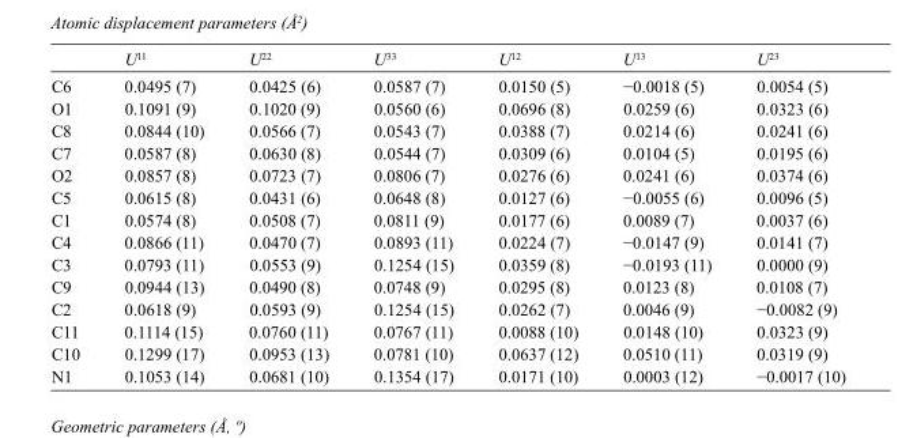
<table><thead><tr><td></td><td>U<sup>11</sup></td><td>U<sup>22</sup></td><td>U<sup>33</sup></td><td>U<sup>12</sup></td><td>U<sup>13</sup></td><td>U<sup>23</sup></td></tr></thead><tbody><tr><td>C6</td><td>0.0495 (7)</td><td>0.0425 (6)</td><td>0.0587 (7)</td><td>0.0150 (5)</td><td>−0.0018 (5)</td><td>0.0054 (5)</td></tr><tr><td>O1</td><td>0.1091 (9)</td><td>0.1020 (9)</td><td>0.0560 (6)</td><td>0.0696 (8)</td><td>0.0259 (6)</td><td>0.0323 (6)</td></tr><tr><td>C8</td><td>0.0844 (10)</td><td>0.0566 (7)</td><td>0.0543 (7)</td><td>0.0388 (7)</td><td>0.0214 (6)</td><td>0.0241 (6)</td></tr><tr><td>C7</td><td>0.0587 (8)</td><td>0.0630 (8)</td><td>0.0544 (7)</td><td>0.0309 (6)</td><td>0.0104 (5)</td><td>0.0195 (6)</td></tr><tr><td>O2</td><td>0.0857 (8)</td><td>0.0723 (7)</td><td>0.0806 (7)</td><td>0.0276 (6)</td><td>0.0241 (6)</td><td>0.0374 (6)</td></tr><tr><td>C5</td><td>0.0615 (8)</td><td>0.0431 (6)</td><td>0.0648 (8)</td><td>0.0127 (6)</td><td>−0.0055 (6)</td><td>0.0096 (5)</td></tr><tr><td>C1</td><td>0.0574 (8)</td><td>0.0508 (7)</td><td>0.0811 (9)</td><td>0.0177 (6)</td><td>0.0089 (7)</td><td>0.0037 (6)</td></tr><tr><td>C4</td><td>0.0866 (11)</td><td>0.0470 (7)</td><td>0.0893 (11)</td><td>0.0224 (7)</td><td>−0.0147 (9)</td><td>0.0141 (7)</td></tr><tr><td>C3</td><td>0.0793 (11)</td><td>0.0553 (9)</td><td>0.1254 (15)</td><td>0.0359 (8)</td><td>−0.0193 (11)</td><td>0.0000 (9)</td></tr><tr><td>C9</td><td>0.0944 (13)</td><td>0.0490 (8)</td><td>0.0748 (9)</td><td>0.0295 (8)</td><td>0.0123 (8)</td><td>0.0108 (7)</td></tr><tr><td>C2</td><td>0.0618 (9)</td><td>0.0593 (9)</td><td>0.1254 (15)</td><td>0.0262 (7)</td><td>0.0046 (9)</td><td>−0.0082 (9)</td></tr><tr><td>C11</td><td>0.1114 (15)</td><td>0.0760 (11)</td><td>0.0767 (11)</td><td>0.0088 (10)</td><td>0.0148 (10)</td><td>0.0323 (9)</td></tr><tr><td>C10</td><td>0.1299 (17)</td><td>0.0953 (13)</td><td>0.0781 (10)</td><td>0.0637 (12)</td><td>0.0510 (11)</td><td>0.0319 (9)</td></tr><tr><td>N1</td><td>0.1053 (14)</td><td>0.0681 (10)</td><td>0.1354 (17)</td><td>0.0171 (10)</td><td>0.0003 (12)</td><td>−0.0017 (10)</td></tr></tbody></table>